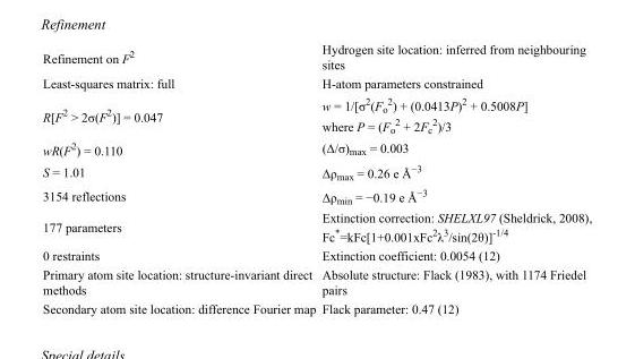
<table><tbody><tr><td>Refinement on F<sup>2</sup></td><td>Hydrogen site location: inferred from neighbouring sites</td></tr><tr><td>Least-squares matrix: full</td><td>H-atom parameters constrained</td></tr><tr><td>R[F<sup>2</sup> &gt; 2σ(F<sup>2</sup>)] = 0.047</td><td>w = 1/[σ<sup>2</sup>(F<sub>o</sub> <sup>2</sup>) + (0.0413P)<sup>2</sup> + 0.5008P] where P = (F<sub>o</sub> <sup>2</sup> + 2F<sub>c</sub> <sup>2</sup>)/3</td></tr><tr><td>wR(F<sup>2</sup>) = 0.110</td><td>(Δ/σ)<sub>max</sub> = 0.003</td></tr><tr><td>S = 1.01</td><td>Δρ<sub>max</sub> = 0.26 e Å<sup>−3</sup></td></tr><tr><td>3154 reflections</td><td>Δρ<sub>min</sub> = −0.19 e Å<sup>−3</sup></td></tr><tr><td>177 parameters</td><td>Extinction correction: SHELXL97 (Sheldrick, 2008), Fc*=kFc[1+0.001xFc<sup>2</sup>λ<sup>3</sup>/sin(2θ)]<sup>-1/4</sup></td></tr><tr><td>0 restraints</td><td>Extinction coefficient: 0.0054 (12)</td></tr><tr><td>Primary atom site location: structure-invariant direct methods</td><td>Absolute structure: Flack (1983), with 1174 Friedel pairs</td></tr><tr><td>Secondary atom site location: difference Fourier map</td><td>Flack parameter: 0.47 (12)</td></tr></tbody></table>